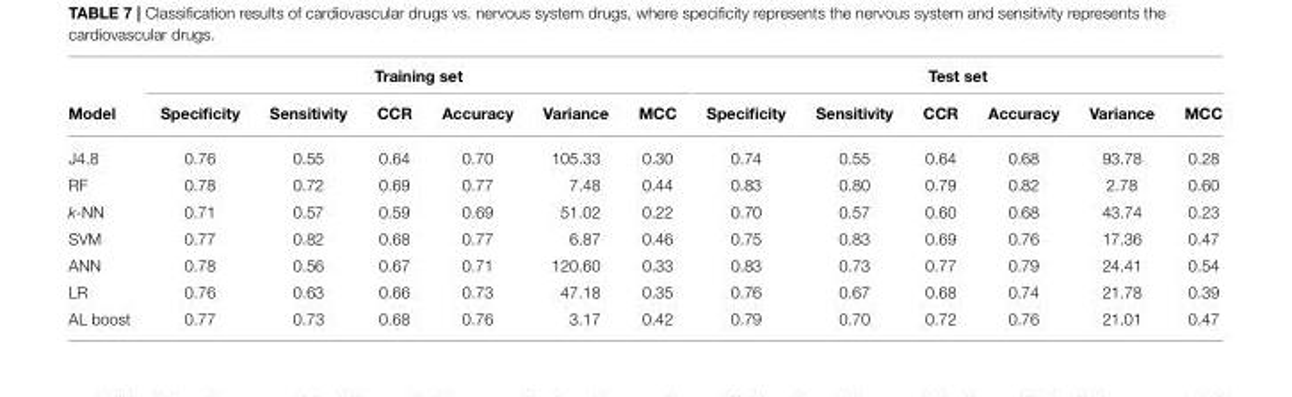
<table><thead><tr><td rowspan="2">Model</td><td colspan="6">Training set</td><td colspan="6">Test set</td></tr><tr><td>Specificity</td><td>Sensitivity</td><td>CCR</td><td>Accuracy</td><td>Variance</td><td>MCC</td><td>Specificity</td><td>Sensitivity</td><td>CCR</td><td>Accuracy</td><td>Variance</td><td>MCC</td></tr></thead><tbody><tr><td>J4.8</td><td>0.76</td><td>0.55</td><td>0.64</td><td>0.70</td><td>105.33</td><td>0.30</td><td>0.74</td><td>0.55</td><td>0.64</td><td>0.68</td><td>93.78</td><td>0.28</td></tr><tr><td>RF</td><td>0.78</td><td>0.72</td><td>0.69</td><td>0.77</td><td>7.48</td><td>0.44</td><td>0.83</td><td>0.80</td><td>0.79</td><td>0.82</td><td>2.78</td><td>0.60</td></tr><tr><td>k-NN</td><td>0.71</td><td>0.57</td><td>0.59</td><td>0.69</td><td>51.02</td><td>0.22</td><td>0.70</td><td>0.57</td><td>0.60</td><td>0.68</td><td>43.74</td><td>0.23</td></tr><tr><td>SVM</td><td>0.77</td><td>0.82</td><td>0.68</td><td>0.77</td><td>6.87</td><td>0.46</td><td>0.75</td><td>0.83</td><td>0.69</td><td>0.76</td><td>17.36</td><td>0.47</td></tr><tr><td>ANN</td><td>0.78</td><td>0.56</td><td>0.67</td><td>0.71</td><td>120.60</td><td>0.33</td><td>0.83</td><td>0.73</td><td>0.77</td><td>0.79</td><td>24.41</td><td>0.54</td></tr><tr><td>LR</td><td>0.76</td><td>0.63</td><td>0.66</td><td>0.73</td><td>47.18</td><td>0.35</td><td>0.76</td><td>0.67</td><td>0.68</td><td>0.74</td><td>21.78</td><td>0.39</td></tr><tr><td>AL boost</td><td>0.77</td><td>0.73</td><td>0.68</td><td>0.76</td><td>3.17</td><td>0.42</td><td>0.79</td><td>0.70</td><td>0.72</td><td>0.76</td><td>21.01</td><td>0.47</td></tr></tbody></table>